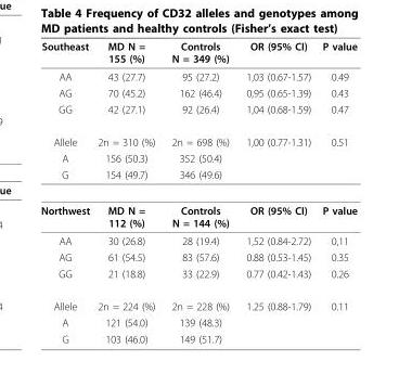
<table><thead><tr><td>Southeast</td><td>MD N = 155 (%)</td><td>Controls N = 349 (%)</td><td>OR (95% CI)</td><td>P value</td></tr></thead><tbody><tr><td>AA</td><td>43 (27.7)</td><td>95 (27.2)</td><td>1,03 (0.67-1.57)</td><td>0.49</td></tr><tr><td>AG</td><td>70 (45.2)</td><td>162 (46.4)</td><td>0,95 (0.65-1.39)</td><td>0.43</td></tr><tr><td>GG</td><td>42 (27.1)</td><td>92 (26.4)</td><td>1,04 (0.68-1.59)</td><td>0.47</td></tr><tr><td>Allele</td><td>2n = 310 (%)</td><td>2n = 698 (%)</td><td>1,00 (0.77-1.31)</td><td>0.51</td></tr><tr><td>A</td><td>156 (50.3)</td><td>352 (50.4)</td><td></td><td></td></tr><tr><td>G</td><td>154 (49.7)</td><td>346 (49.6)</td><td></td><td></td></tr><tr><td>Northwest</td><td>MD N = 112 (%)</td><td>Controls N = 144 (%)</td><td>OR (95% CI)</td><td>P value</td></tr><tr><td>AA</td><td>30 (26.8)</td><td>28 (19.4)</td><td>1,52 (0.84-2.72)</td><td>0,11</td></tr><tr><td>AG</td><td>61 (54.5)</td><td>83 (57.6)</td><td>0.88 (0.53-1.45)</td><td>0.35</td></tr><tr><td>GG</td><td>21 (18.8)</td><td>33 (22.9)</td><td>0.77 (0.42-1.43)</td><td>0.26</td></tr><tr><td>Allele</td><td>2n = 224 (%)</td><td>2n = 228 (%)</td><td>1.25 (0.88-1.79)</td><td>0.11</td></tr><tr><td>A</td><td>121 (54.0)</td><td>139 (48.3)</td><td></td><td></td></tr><tr><td>G</td><td>103 (46.0)</td><td>149 (51.7)</td><td></td><td></td></tr></tbody></table>